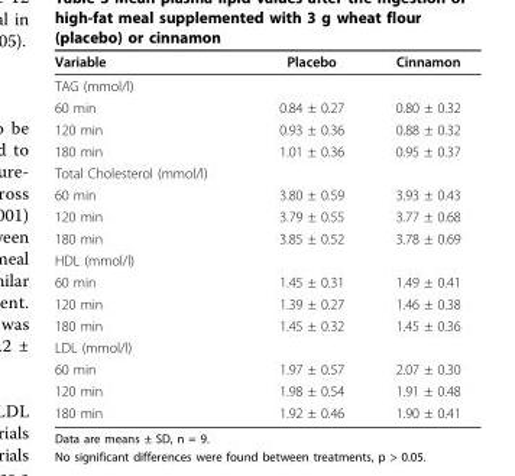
<table><thead><tr><td>Variable</td><td>Placebo</td><td>Cinnamon</td></tr></thead><tbody><tr><td colspan="3">TAG (mmol/l)</td></tr><tr><td>60 min</td><td>0.84 ± 0.27</td><td>0.80 ± 0.32</td></tr><tr><td>120 min</td><td>0.93 ± 0.36</td><td>0.88 ± 0.32</td></tr><tr><td>180 min</td><td>1.01 ± 0.36</td><td>0.95 ± 0.37</td></tr><tr><td colspan="3">Total Cholesterol (mmol/l)</td></tr><tr><td>60 min</td><td>3.80 ± 0.59</td><td>3.93 ± 0.43</td></tr><tr><td>120 min</td><td>3.79 ± 0.55</td><td>3.77 ± 0.68</td></tr><tr><td>180 min</td><td>3.85 ± 0.52</td><td>3.78 ± 0.69</td></tr><tr><td colspan="3">HDL (mmol/l)</td></tr><tr><td>60 min</td><td>1.45 ± 0.31</td><td>1.49 ± 0.41</td></tr><tr><td>120 min</td><td>1.39 ± 0.27</td><td>1.46 ± 0.38</td></tr><tr><td>180 min</td><td>1.45 ± 0.32</td><td>1.45 ± 0.36</td></tr><tr><td colspan="3">LDL (mmol/l)</td></tr><tr><td>60 min</td><td>1.97 ± 0.57</td><td>2.07 ± 0.30</td></tr><tr><td>120 min</td><td>1.98 ± 0.54</td><td>1.91 ± 0.48</td></tr><tr><td>180 min</td><td>1.92 ± 0.46</td><td>1.90 ± 0.41</td></tr></tbody></table>